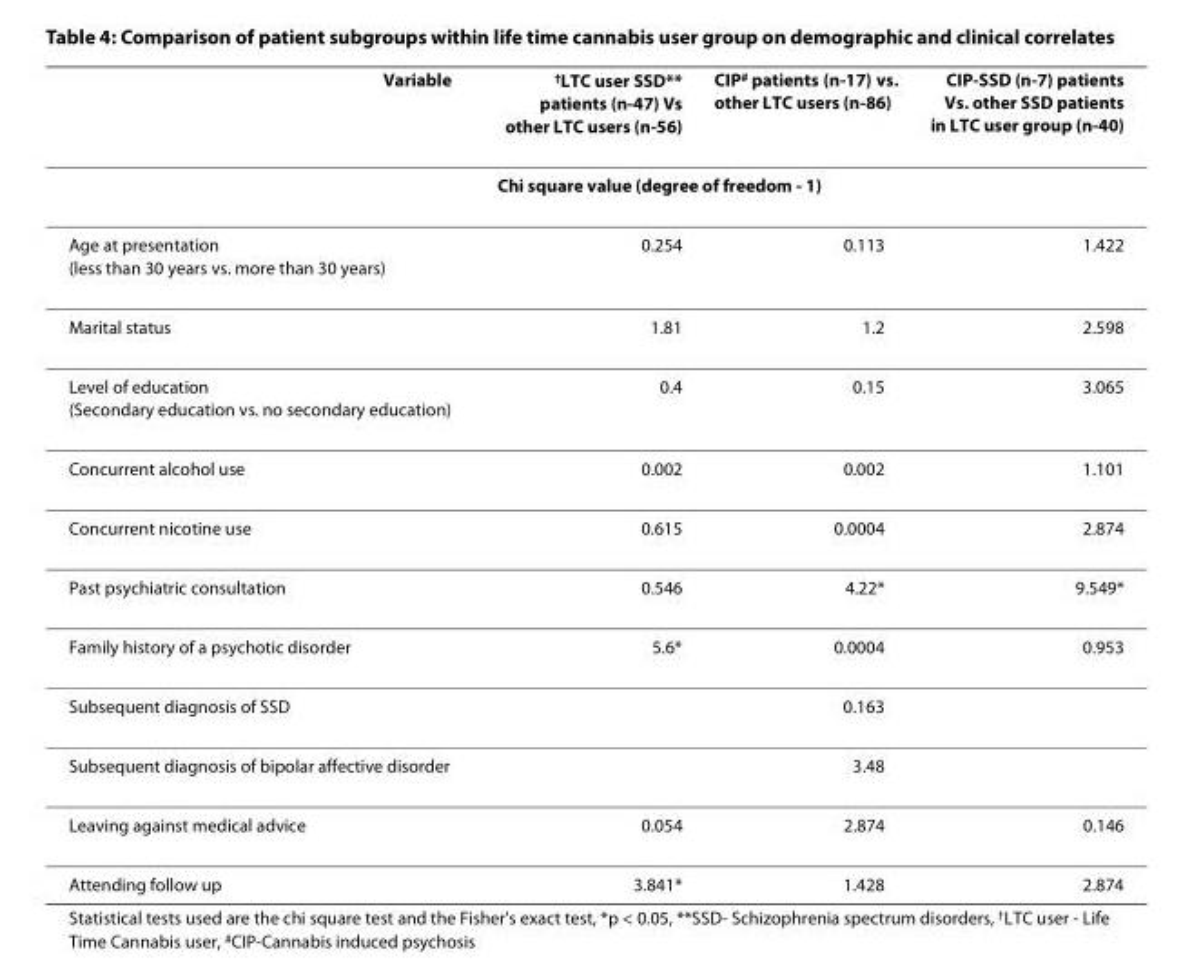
<table><thead><tr><td>Variable</td><td><sup>†</sup>LTC user SSD** patients (n-47) Vs other LTC users (n-56)</td><td>CIP<sup>#</sup> patients (n-17) vs. other LTC users (n-86)</td><td>CIP-SSD (n-7) patients Vs. other SSD patients in LTC user group (n-40)</td></tr></thead><tbody><tr><td></td><td colspan="3">Chi square value (degree of freedom - 1)</td></tr><tr><td>Age at presentation (less than 30 years vs. more than 30 years)</td><td>0.254</td><td>0.113</td><td>1.422</td></tr><tr><td>Marital status</td><td>1.81</td><td>1.2</td><td>2.598</td></tr><tr><td>Level of education (Secondary education vs. no secondary education)</td><td>0.4</td><td>0.15</td><td>3.065</td></tr><tr><td>Concurrent alcohol use</td><td>0.002</td><td>0.002</td><td>1.101</td></tr><tr><td>Concurrent nicotine use</td><td>0.615</td><td>0.0004</td><td>2.874</td></tr><tr><td>Past psychiatric consultation</td><td>0.546</td><td>4.22*</td><td>9.549*</td></tr><tr><td>Family history of a psychotic disorder</td><td>5.6*</td><td>0.0004</td><td>0.953</td></tr><tr><td>Subsequent diagnosis of SSD</td><td></td><td>0.163</td><td></td></tr><tr><td>Subsequent diagnosis of bipolar affective disorder</td><td></td><td>3.48</td><td></td></tr><tr><td>Leaving against medical advice</td><td>0.054</td><td>2.874</td><td>0.146</td></tr><tr><td>Attending follow up</td><td>3.841*</td><td>1.428</td><td>2.874</td></tr></tbody></table>